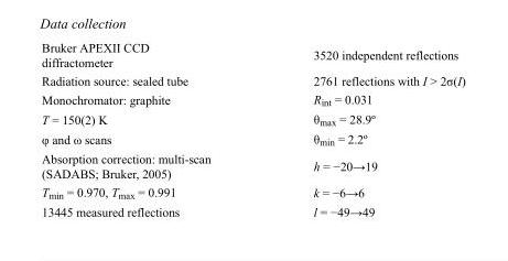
<table><tbody><tr><td>Bruker APEXII CCD diffractometer</td><td>3520 independent reflections</td></tr><tr><td>Radiation source: sealed tube</td><td>2761 reflections with I &gt; 2σ(I)</td></tr><tr><td>Monochromator: graphite</td><td>R<sub>int</sub> = 0.031</td></tr><tr><td>T = 150(2) K</td><td>θ<sub>max</sub> = 28.9º</td></tr><tr><td>φ and ω scans</td><td>θ<sub>min</sub> = 2.2º</td></tr><tr><td>Absorption correction: multi-scan (SADABS; Bruker, 2005)</td><td>h = −20→19</td></tr><tr><td>T<sub>min</sub> = 0.970, T<sub>max</sub> = 0.991</td><td>k = −6→6</td></tr><tr><td>13445 measured reflections</td><td>l = −49→49</td></tr></tbody></table>